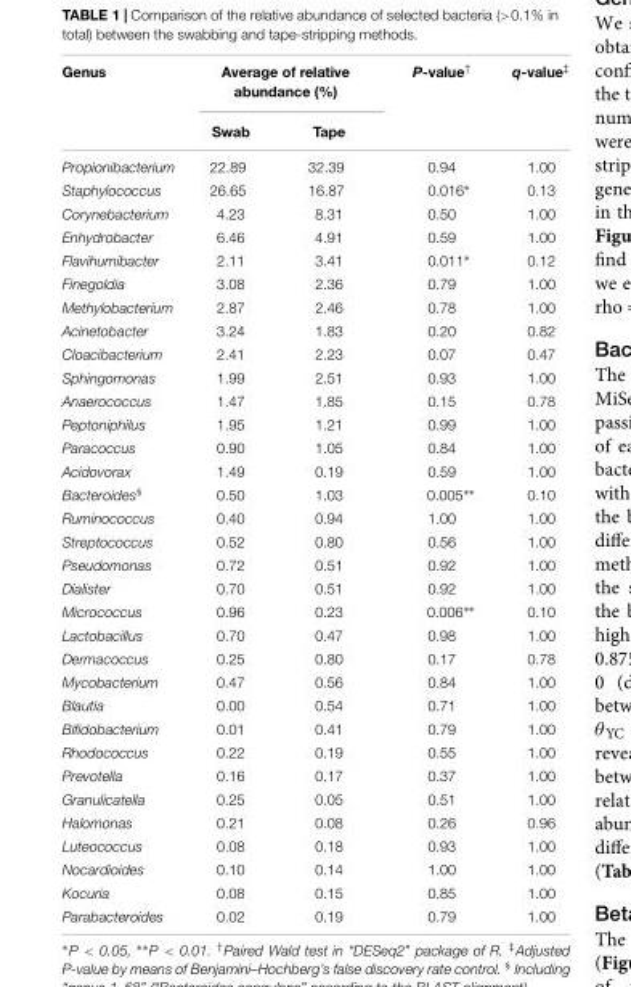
<table><thead><tr><td rowspan="2">Genus</td><td colspan="2">Average of relative abundance (%)</td><td rowspan="2">P-value<sup>†</sup></td><td rowspan="2">q-value<sup>‡</sup></td></tr><tr><td>Swab</td><td>Tape</td></tr></thead><tbody><tr><td>Propionibacterium</td><td>22.89</td><td>32.39</td><td>0.94</td><td>1.00</td></tr><tr><td>Staphylococcus</td><td>26.65</td><td>16.87</td><td>0.016∗</td><td>0.13</td></tr><tr><td>Corynebacterium</td><td>4.23</td><td>8.31</td><td>0.50</td><td>1.00</td></tr><tr><td>Enhydrobacter</td><td>6.46</td><td>4.91</td><td>0.59</td><td>1.00</td></tr><tr><td>Flavihumibacter</td><td>2.11</td><td>3.41</td><td>0.011∗</td><td>0.12</td></tr><tr><td>Finegoldia</td><td>3.08</td><td>2.36</td><td>0.79</td><td>1.00</td></tr><tr><td>Methylobacterium</td><td>2.87</td><td>2.46</td><td>0.78</td><td>1.00</td></tr><tr><td>Acinetobacter</td><td>3.24</td><td>1.83</td><td>0.20</td><td>0.82</td></tr><tr><td>Cloacibacterium</td><td>2.41</td><td>2.23</td><td>0.07</td><td>0.47</td></tr><tr><td>Sphingomonas</td><td>1.99</td><td>2.51</td><td>0.93</td><td>1.00</td></tr><tr><td>Anaerococcus</td><td>1.47</td><td>1.85</td><td>0.15</td><td>0.78</td></tr><tr><td>Peptoniphilus</td><td>1.95</td><td>1.21</td><td>0.99</td><td>1.00</td></tr><tr><td>Paracoccus</td><td>0.90</td><td>1.05</td><td>0.84</td><td>1.00</td></tr><tr><td>Acidovorax</td><td>1.49</td><td>0.19</td><td>0.59</td><td>1.00</td></tr><tr><td>Bacteroides<sup>§</sup></td><td>0.50</td><td>1.03</td><td>0.005∗∗</td><td>0.10</td></tr><tr><td>Ruminococcus</td><td>0.40</td><td>0.94</td><td>1.00</td><td>1.00</td></tr><tr><td>Streptococcus</td><td>0.52</td><td>0.80</td><td>0.56</td><td>1.00</td></tr><tr><td>Pseudomonas</td><td>0.72</td><td>0.51</td><td>0.92</td><td>1.00</td></tr><tr><td>Dialister</td><td>0.70</td><td>0.51</td><td>0.92</td><td>1.00</td></tr><tr><td>Micrococcus</td><td>0.96</td><td>0.23</td><td>0.006∗∗</td><td>0.10</td></tr><tr><td>Lactobacillus</td><td>0.70</td><td>0.47</td><td>0.98</td><td>1.00</td></tr><tr><td>Dermacoccus</td><td>0.25</td><td>0.80</td><td>0.17</td><td>0.78</td></tr><tr><td>Mycobacterium</td><td>0.47</td><td>0.56</td><td>0.84</td><td>1.00</td></tr><tr><td>Blautia</td><td>0.00</td><td>0.54</td><td>0.71</td><td>1.00</td></tr><tr><td>Bifidobacterium</td><td>0.01</td><td>0.41</td><td>0.79</td><td>1.00</td></tr><tr><td>Rhodococcus</td><td>0.22</td><td>0.19</td><td>0.55</td><td>1.00</td></tr><tr><td>Prevotella</td><td>0.16</td><td>0.17</td><td>0.37</td><td>1.00</td></tr><tr><td>Granulicatella</td><td>0.25</td><td>0.05</td><td>0.51</td><td>1.00</td></tr><tr><td>Halomonas</td><td>0.21</td><td>0.08</td><td>0.26</td><td>0.96</td></tr><tr><td>Luteococcus</td><td>0.08</td><td>0.18</td><td>0.93</td><td>1.00</td></tr><tr><td>Nocardioides</td><td>0.10</td><td>0.14</td><td>1.00</td><td>1.00</td></tr><tr><td>Kocuria</td><td>0.08</td><td>0.15</td><td>0.85</td><td>1.00</td></tr><tr><td>Parabacteroides</td><td>0.02</td><td>0.19</td><td>0.79</td><td>1.00</td></tr></tbody></table>